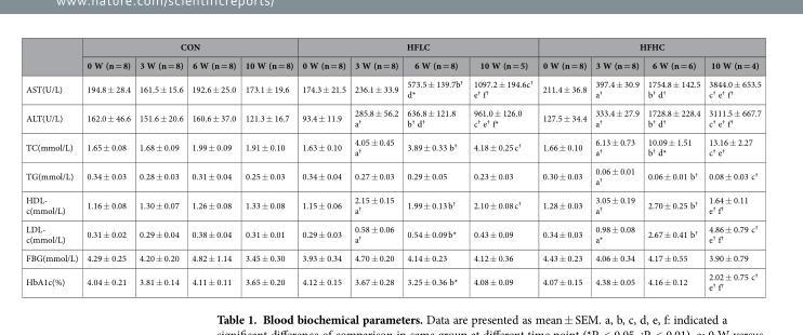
<table><thead><tr><td rowspan="2"></td><td colspan="4">CON</td><td colspan="4">HFLC</td><td colspan="4">HFHC</td></tr><tr><td>0 W (n = 8)</td><td>3 W (n = 8)</td><td>6 W (n = 8)</td><td>10 W (n = 8)</td><td>0 W (n = 8)</td><td>3 W (n = 8)</td><td>6 W (n = 8)</td><td>10 W (n = 5)</td><td>0 W (n = 8)</td><td>3 W (n = 8)</td><td>6 W (n = 6)</td><td>10 W (n = 4)</td></tr></thead><tbody><tr><td>AST(U/L)</td><td>194.8 ± 28.4</td><td>161.5 ± 15.6</td><td>192.6 ± 25.0</td><td>173.1 ± 19.6</td><td>174.3 ± 21.5</td><td>236.1 ± 33.9</td><td>573.5 ± 139.7b<sup>†</sup> d*</td><td>1097.2 ± 194.6c<sup>†</sup> e<sup>†</sup> f<sup>†</sup></td><td>211.4 ± 36.8</td><td>397.4 ± 30.9 a<sup>†</sup></td><td>1754.8 ± 142.5 b<sup>†</sup> d<sup>†</sup></td><td>3844.0 ± 653.5 c<sup>†</sup> e<sup>†</sup> f<sup>†</sup></td></tr><tr><td>ALT(U/L)</td><td>162.0 ± 46.6</td><td>151.6 ± 20.6</td><td>160.6 ± 37.0</td><td>121.3 ± 16.7</td><td>93.4 ± 11.9</td><td>285.8 ± 56.2 a<sup>†</sup></td><td>636.8 ± 121.8 b<sup>†</sup> d<sup>†</sup></td><td>961.0 ± 126.0 c<sup>†</sup> e<sup>†</sup> f*</td><td>127.5 ± 34.4</td><td>333.4 ± 27.9 a<sup>†</sup></td><td>1728.8 ± 228.4 b<sup>†</sup> d<sup>†</sup></td><td>3111.5 ± 667.7 c<sup>†</sup> e<sup>†</sup> f<sup>†</sup></td></tr><tr><td>TC(mmol/L)</td><td>1.65 ± 0.08</td><td>1.68 ± 0.09</td><td>1.99 ± 0.09</td><td>1.91 ± 0.10</td><td>1.63 ± 0.10</td><td>4.05 ± 0.45 a<sup>†</sup></td><td>3.89 ± 0.33 b<sup>†</sup></td><td>4.18 ± 0.25 c<sup>†</sup></td><td>1.66 ± 0.10</td><td>6.13 ± 0.73 a<sup>†</sup></td><td>10.09 ± 1.51 b<sup>†</sup> d*</td><td>13.16 ± 2.27 c<sup>†</sup> e<sup>†</sup></td></tr><tr><td>TG(mmol/L)</td><td>0.34 ± 0.03</td><td>0.28 ± 0.03</td><td>0.31 ± 0.04</td><td>0.25 ± 0.03</td><td>0.34 ± 0.04</td><td>0.27 ± 0.03</td><td>0.29 ± 0.05</td><td>0.23 ± 0.03</td><td>0.30 ± 0.03</td><td>0.06 ± 0.01 a<sup>†</sup></td><td>0.06 ± 0.01 b<sup>†</sup></td><td>0.08 ± 0.03 c<sup>†</sup></td></tr><tr><td>HDL- c(mmol/L)</td><td>1.16 ± 0.08</td><td>1.30 ± 0.07</td><td>1.26 ± 0.08</td><td>1.33 ± 0.08</td><td>1.15 ± 0.06</td><td>2.15 ± 0.15 a<sup>†</sup></td><td>1.99 ± 0.13 b<sup>†</sup></td><td>2.10 ± 0.08 c<sup>†</sup></td><td>1.28 ± 0.03</td><td>3.05 ± 0.19 a<sup>†</sup></td><td>2.70 ± 0.25 b<sup>†</sup></td><td>1.64 ± 0.11 e<sup>†</sup> f<sup>†</sup></td></tr><tr><td>LDL- c(mmol/L)</td><td>0.31 ± 0.02</td><td>0.29 ± 0.04</td><td>0.38 ± 0.04</td><td>0.31 ± 0.01</td><td>0.29 ± 0.03</td><td>0.58 ± 0.06 a<sup>†</sup></td><td>0.54 ± 0.09 b*</td><td>0.43 ± 0.09</td><td>0.34 ± 0.03</td><td>0.98 ± 0.08 a*</td><td>2.67 ± 0.41 b<sup>†</sup></td><td>4.86 ± 0.79 c<sup>†</sup> e<sup>†</sup> f<sup>†</sup></td></tr><tr><td>FBG(mmol/L)</td><td>4.29 ± 0.25</td><td>4.20 ± 0.20</td><td>4.82 ± 1.14</td><td>3.45 ± 0.30</td><td>3.93 ± 0.34</td><td>4.70 ± 0.20</td><td>4.14 ± 0.23</td><td>4.12 ± 0.36</td><td>4.43 ± 0.23</td><td>4.06 ± 0.34</td><td>4.17 ± 0.55</td><td>3.90 ± 0.79</td></tr><tr><td>HbA1c(%)</td><td>4.04 ± 0.21</td><td>3.81 ± 0.14</td><td>4.11 ± 0.11</td><td>3.65 ± 0.20</td><td>4.12 ± 0.15</td><td>3.67 ± 0.28</td><td>3.25 ± 0.36 b*</td><td>4.08 ± 0.09</td><td>4.07 ± 0.15</td><td>4.38 ± 0.05</td><td>4.16 ± 0.12</td><td>2.02 ± 0.75 c<sup>†</sup> e<sup>†</sup> f<sup>†</sup></td></tr></tbody></table>